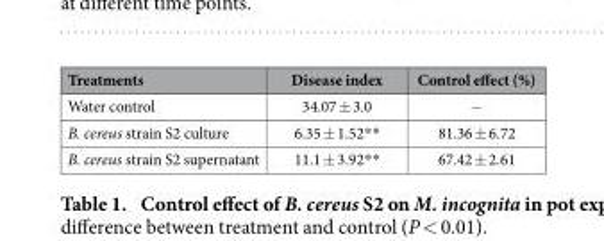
<table><thead><tr><td>Treatments</td><td>Disease index</td><td>Control effect (%)</td></tr></thead><tbody><tr><td>Water control</td><td>34.07 ± 3.0</td><td>−</td></tr><tr><td>B. cereus strain S2 culture</td><td>6.35 ± 1.52**</td><td>81.36 ± 6.72</td></tr><tr><td>B. cereus strain S2 supernatant</td><td>11.1 ± 3.92**</td><td>67.42 ± 2.61</td></tr></tbody></table>